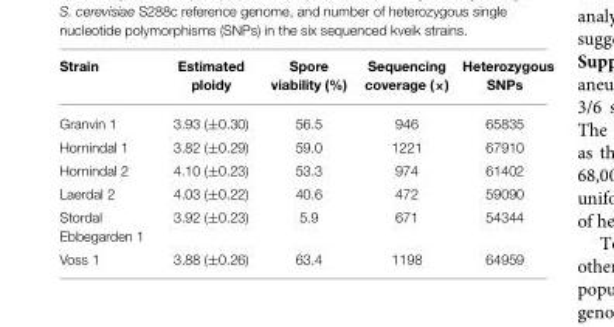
<table><thead><tr><td>Strain</td><td>Estimated ploidy</td><td>Spore viability (%)</td><td>Sequencing coverage (×)</td><td>Heterozygous SNPs</td></tr></thead><tbody><tr><td>Granvin 1</td><td>3.93 (±0.30)</td><td>56.5</td><td>946</td><td>65835</td></tr><tr><td>Hornindal 1</td><td>3.82 (±0.29)</td><td>59.0</td><td>1221</td><td>67910</td></tr><tr><td>Hornindal 2</td><td>4.10 (±0.23)</td><td>53.3</td><td>974</td><td>61402</td></tr><tr><td>Laerdal 2</td><td>4.03 (±0.22)</td><td>40.6</td><td>472</td><td>59090</td></tr><tr><td>Stordal Ebbegarden 1</td><td>3.92 (±0.23)</td><td>5.9</td><td>671</td><td>54344</td></tr><tr><td>Voss 1</td><td>3.88 (±0.26)</td><td>63.4</td><td>1198</td><td>64959</td></tr></tbody></table>